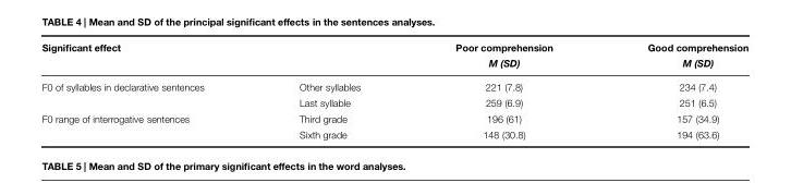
<table><thead><tr><td rowspan="2">Significant effect</td><td rowspan="2"></td><td rowspan="2">Poor comprehension M (SD)</td><td rowspan="2">Good comprehension M (SD)</td></tr><tr></tr></thead><tbody><tr><td rowspan="2">F0 of syllables in declarative sentences</td><td>Other syllables</td><td>221 (7.8)</td><td>234 (7.4)</td></tr><tr><td>Last syllable</td><td>259 (6.9)</td><td>251 (6.5)</td></tr><tr><td rowspan="2">F0 range of interrogative sentences</td><td>Third grade</td><td>196 (61)</td><td>157 (34.9)</td></tr><tr><td>Sixth grade</td><td>148 (30.8)</td><td>194 (63.6)</td></tr></tbody></table>